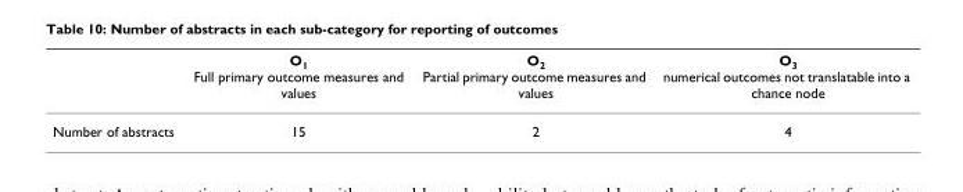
<table><thead><tr><td></td><td>O<sub>1</sub> Full primary outcome measures and values</td><td>O<sub>2</sub> Partial primary outcome measures and values</td><td>O<sub>3</sub> numerical outcomes not translatable into a chance node</td></tr></thead><tbody><tr><td>Number of abstracts</td><td>15</td><td>2</td><td>4</td></tr></tbody></table>